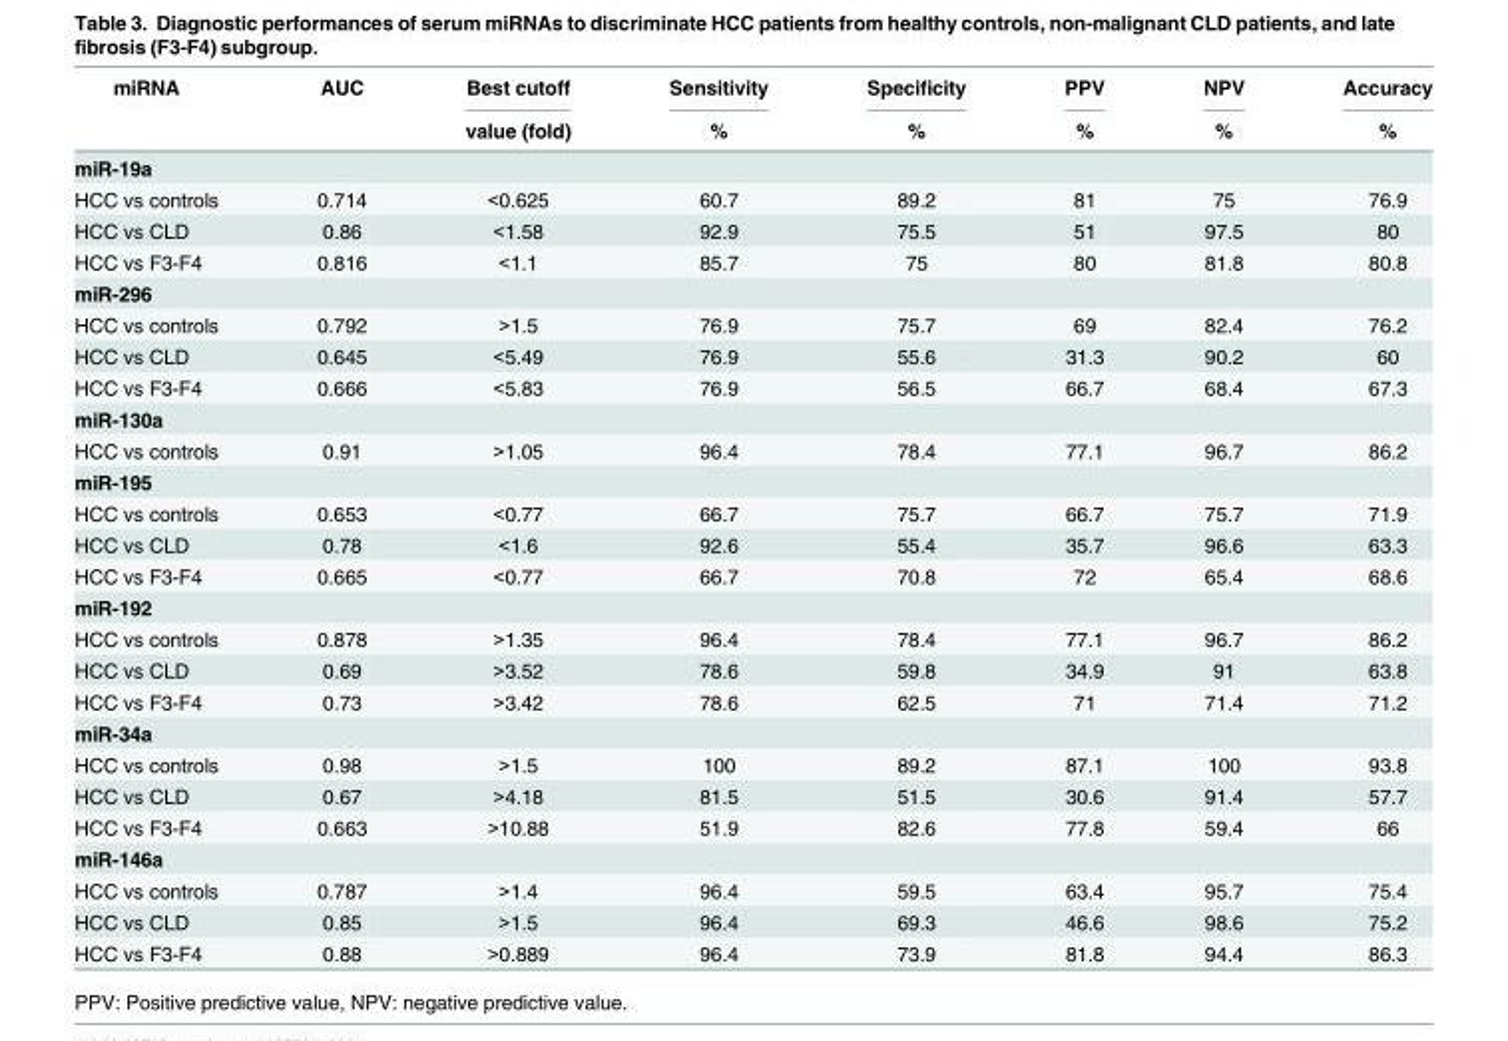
<table><thead><tr><td rowspan="2">miRNA</td><td rowspan="2">AUC</td><td rowspan="2">Best cutoff value (fold)</td><td rowspan="2">Sensitivity %</td><td rowspan="2">Specificity %</td><td rowspan="2">PPV %</td><td rowspan="2">NPV %</td><td rowspan="2">Accuracy %</td></tr><tr></tr></thead><tbody><tr><td colspan="8">miR-19a</td></tr><tr><td>HCC vs controls</td><td>0.714</td><td>&lt;0.625</td><td>60.7</td><td>89.2</td><td>81</td><td>75</td><td>76.9</td></tr><tr><td>HCC vs CLD</td><td>0.86</td><td>&lt;1.58</td><td>92.9</td><td>75.5</td><td>51</td><td>97.5</td><td>80</td></tr><tr><td>HCC vs F3-F4</td><td>0.816</td><td>&lt;1.1</td><td>85.7</td><td>75</td><td>80</td><td>81.8</td><td>80.8</td></tr><tr><td colspan="8">miR-296</td></tr><tr><td>HCC vs controls</td><td>0.792</td><td>&gt;1.5</td><td>76.9</td><td>75.7</td><td>69</td><td>82.4</td><td>76.2</td></tr><tr><td>HCC vs CLD</td><td>0.645</td><td>&lt;5.49</td><td>76.9</td><td>55.6</td><td>31.3</td><td>90.2</td><td>60</td></tr><tr><td>HCC vs F3-F4</td><td>0.666</td><td>&lt;5.83</td><td>76.9</td><td>56.5</td><td>66.7</td><td>68.4</td><td>67.3</td></tr><tr><td colspan="8">miR-130a</td></tr><tr><td>HCC vs controls</td><td>0.91</td><td>&gt;1.05</td><td>96.4</td><td>78.4</td><td>77.1</td><td>96.7</td><td>86.2</td></tr><tr><td colspan="8">miR-195</td></tr><tr><td>HCC vs controls</td><td>0.653</td><td>&lt;0.77</td><td>66.7</td><td>75.7</td><td>66.7</td><td>75.7</td><td>71.9</td></tr><tr><td>HCC vs CLD</td><td>0.78</td><td>&lt;1.6</td><td>92.6</td><td>55.4</td><td>35.7</td><td>96.6</td><td>63.3</td></tr><tr><td>HCC vs F3-F4</td><td>0.665</td><td>&lt;0.77</td><td>66.7</td><td>70.8</td><td>72</td><td>65.4</td><td>68.6</td></tr><tr><td colspan="8">miR-192</td></tr><tr><td>HCC vs controls</td><td>0.878</td><td>&gt;1.35</td><td>96.4</td><td>78.4</td><td>77.1</td><td>96.7</td><td>86.2</td></tr><tr><td>HCC vs CLD</td><td>0.69</td><td>&gt;3.52</td><td>78.6</td><td>59.8</td><td>34.9</td><td>91</td><td>63.8</td></tr><tr><td>HCC vs F3-F4</td><td>0.73</td><td>&gt;3.42</td><td>78.6</td><td>62.5</td><td>71</td><td>71.4</td><td>71.2</td></tr><tr><td colspan="8">miR-34a</td></tr><tr><td>HCC vs controls</td><td>0.98</td><td>&gt;1.5</td><td>100</td><td>89.2</td><td>87.1</td><td>100</td><td>93.8</td></tr><tr><td>HCC vs CLD</td><td>0.67</td><td>&gt;4.18</td><td>81.5</td><td>51.5</td><td>30.6</td><td>91.4</td><td>57.7</td></tr><tr><td>HCC vs F3-F4</td><td>0.663</td><td>&gt;10.88</td><td>51.9</td><td>82.6</td><td>77.8</td><td>59.4</td><td>66</td></tr><tr><td colspan="8">miR-146a</td></tr><tr><td>HCC vs controls</td><td>0.787</td><td>&gt;1.4</td><td>96.4</td><td>59.5</td><td>63.4</td><td>95.7</td><td>75.4</td></tr><tr><td>HCC vs CLD</td><td>0.85</td><td>&gt;1.5</td><td>96.4</td><td>69.3</td><td>46.6</td><td>98.6</td><td>75.2</td></tr><tr><td>HCC vs F3-F4</td><td>0.88</td><td>&gt;0.889</td><td>96.4</td><td>73.9</td><td>81.8</td><td>94.4</td><td>86.3</td></tr></tbody></table>